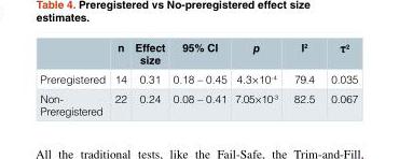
<table><thead><tr><td></td><td>n</td><td>Effect size</td><td>95% CI</td><td>p</td><td>I<sup>2</sup></td><td>τ<sup>2</sup></td></tr></thead><tbody><tr><td>Preregistered</td><td>14</td><td>0.31</td><td>0.18 – 0.45</td><td>4.3×10<sup>-4</sup></td><td>79.4</td><td>0.035</td></tr><tr><td>Non- Preregistered</td><td>22</td><td>0.24</td><td>0.08 – 0.41</td><td>7.05×10<sup>-3</sup></td><td>82.5</td><td>0.067</td></tr></tbody></table>